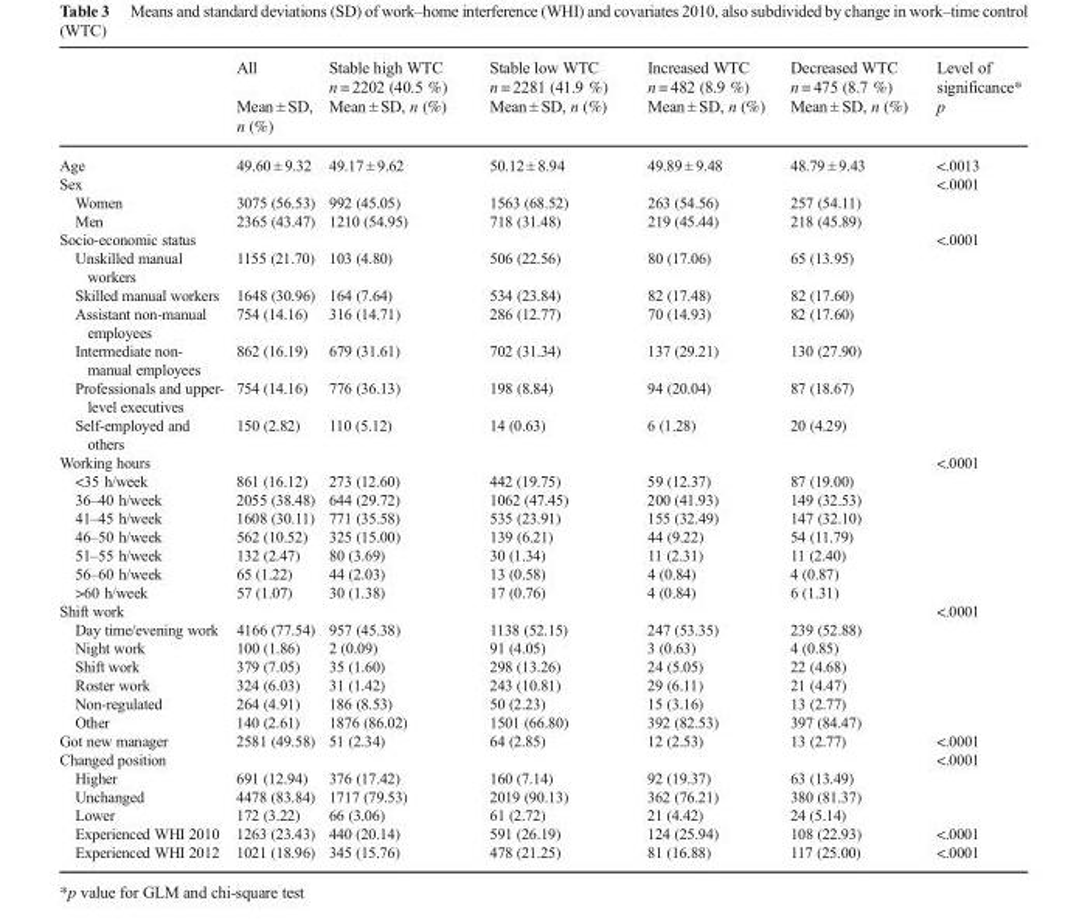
<table><thead><tr><td rowspan="2"></td><td rowspan="2">All Mean ± SD, n (%)</td><td rowspan="2">Stable high WTC n = 2202 (40.5 %) Mean ± SD, n (%)</td><td rowspan="2">Stable low WTC n = 2281 (41.9 %) Mean ± SD, n (%)</td><td rowspan="2">Increased WTC n = 482 (8.9 %) Mean ± SD, n (%)</td><td rowspan="2">Decreased WTC n = 475 (8.7 %) Mean ± SD, n (%)</td><td rowspan="2">Level of significance* p</td></tr><tr></tr></thead><tbody><tr><td>Age</td><td>49.60 ± 9.32</td><td>49.17 ± 9.62</td><td>50.12 ± 8.94</td><td>49.89 ± 9.48</td><td>48.79 ± 9.43</td><td>&lt;.0013</td></tr><tr><td>Sex</td><td></td><td></td><td></td><td></td><td></td><td>&lt;.0001</td></tr><tr><td>Women</td><td>3075 (56.53)</td><td>992 (45.05)</td><td>1563 (68.52)</td><td>263 (54.56)</td><td>257 (54.11)</td><td></td></tr><tr><td>Men</td><td>2365 (43.47)</td><td>1210 (54.95)</td><td>718 (31.48)</td><td>219 (45.44)</td><td>218 (45.89)</td><td></td></tr><tr><td>Socio-economic status</td><td></td><td></td><td></td><td></td><td></td><td>&lt;.0001</td></tr><tr><td>Unskilled manual workers</td><td>1155 (21.70)</td><td>103 (4.80)</td><td>506 (22.56)</td><td>80 (17.06)</td><td>65 (13.95)</td><td></td></tr><tr><td>Skilled manual workers</td><td>1648 (30.96)</td><td>164 (7.64)</td><td>534 (23.84)</td><td>82 (17.48)</td><td>82 (17.60)</td><td></td></tr><tr><td>Assistant non-manual employees</td><td>754 (14.16)</td><td>316 (14.71)</td><td>286 (12.77)</td><td>70 (14.93)</td><td>82 (17.60)</td><td></td></tr><tr><td>Intermediate non- manual employees</td><td>862 (16.19)</td><td>679 (31.61)</td><td>702 (31.34)</td><td>137 (29.21)</td><td>130 (27.90)</td><td></td></tr><tr><td>Professionals and upper- level executives</td><td>754 (14.16)</td><td>776 (36.13)</td><td>198 (8.84)</td><td>94 (20.04)</td><td>87 (18.67)</td><td></td></tr><tr><td>Self-employed and others</td><td>150 (2.82)</td><td>110 (5.12)</td><td>14 (0.63)</td><td>6 (1.28)</td><td>20 (4.29)</td><td></td></tr><tr><td>Working hours</td><td></td><td></td><td></td><td></td><td></td><td>&lt;.0001</td></tr><tr><td>&lt;35 h/week</td><td>861 (16.12)</td><td>273 (12.60)</td><td>442 (19.75)</td><td>59 (12.37)</td><td>87 (19.00)</td><td></td></tr><tr><td>36–40 h/week</td><td>2055 (38.48)</td><td>644 (29.72)</td><td>1062 (47.45)</td><td>200 (41.93)</td><td>149 (32.53)</td><td></td></tr><tr><td>41–45 h/week</td><td>1608 (30.11)</td><td>771 (35.58)</td><td>535 (23.91)</td><td>155 (32.49)</td><td>147 (32.10)</td><td></td></tr><tr><td>46–50 h/week</td><td>562 (10.52)</td><td>325 (15.00)</td><td>139 (6.21)</td><td>44 (9.22)</td><td>54 (11.79)</td><td></td></tr><tr><td>51–55 h/week</td><td>132 (2.47)</td><td>80 (3.69)</td><td>30 (1.34)</td><td>11 (2.31)</td><td>11 (2.40)</td><td></td></tr><tr><td>56–60 h/week</td><td>65 (1.22)</td><td>44 (2.03)</td><td>13 (0.58)</td><td>4 (0.84)</td><td>4 (0.87)</td><td></td></tr><tr><td>&gt;60 h/week</td><td>57 (1.07)</td><td>30 (1.38)</td><td>17 (0.76)</td><td>4 (0.84)</td><td>6 (1.31)</td><td></td></tr><tr><td>Shift work</td><td></td><td></td><td></td><td></td><td></td><td>&lt;.0001</td></tr><tr><td>Day time/evening work</td><td>4166 (77.54)</td><td>957 (45.38)</td><td>1138 (52.15)</td><td>247 (53.35)</td><td>239 (52.88)</td><td></td></tr><tr><td>Night work</td><td>100 (1.86)</td><td>2 (0.09)</td><td>91 (4.05)</td><td>3 (0.63)</td><td>4 (0.85)</td><td></td></tr><tr><td>Shift work</td><td>379 (7.05)</td><td>35 (1.60)</td><td>298 (13.26)</td><td>24 (5.05)</td><td>22 (4.68)</td><td></td></tr><tr><td>Roster work</td><td>324 (6.03)</td><td>31 (1.42)</td><td>243 (10.81)</td><td>29 (6.11)</td><td>21 (4.47)</td><td></td></tr><tr><td>Non-regulated</td><td>264 (4.91)</td><td>186 (8.53)</td><td>50 (2.23)</td><td>15 (3.16)</td><td>13 (2.77)</td><td></td></tr><tr><td>Other</td><td>140 (2.61)</td><td>1876 (86.02)</td><td>1501 (66.80)</td><td>392 (82.53)</td><td>397 (84.47)</td><td></td></tr><tr><td>Got new manager</td><td>2581 (49.58)</td><td>51 (2.34)</td><td>64 (2.85)</td><td>12 (2.53)</td><td>13 (2.77)</td><td>&lt;.0001</td></tr><tr><td>Changed position</td><td></td><td></td><td></td><td></td><td></td><td>&lt;.0001</td></tr><tr><td>Higher</td><td>691 (12.94)</td><td>376 (17.42)</td><td>160 (7.14)</td><td>92 (19.37)</td><td>63 (13.49)</td><td></td></tr><tr><td>Unchanged</td><td>4478 (83.84)</td><td>1717 (79.53)</td><td>2019 (90.13)</td><td>362 (76.21)</td><td>380 (81.37)</td><td></td></tr><tr><td>Lower</td><td>172 (3.22)</td><td>66 (3.06)</td><td>61 (2.72)</td><td>21 (4.42)</td><td>24 (5.14)</td><td></td></tr><tr><td>Experienced WHI 2010</td><td>1263 (23.43)</td><td>440 (20.14)</td><td>591 (26.19)</td><td>124 (25.94)</td><td>108 (22.93)</td><td>&lt;.0001</td></tr><tr><td>Experienced WHI 2012</td><td>1021 (18.96)</td><td>345 (15.76)</td><td>478 (21.25)</td><td>81 (16.88)</td><td>117 (25.00)</td><td>&lt;.0001</td></tr></tbody></table>